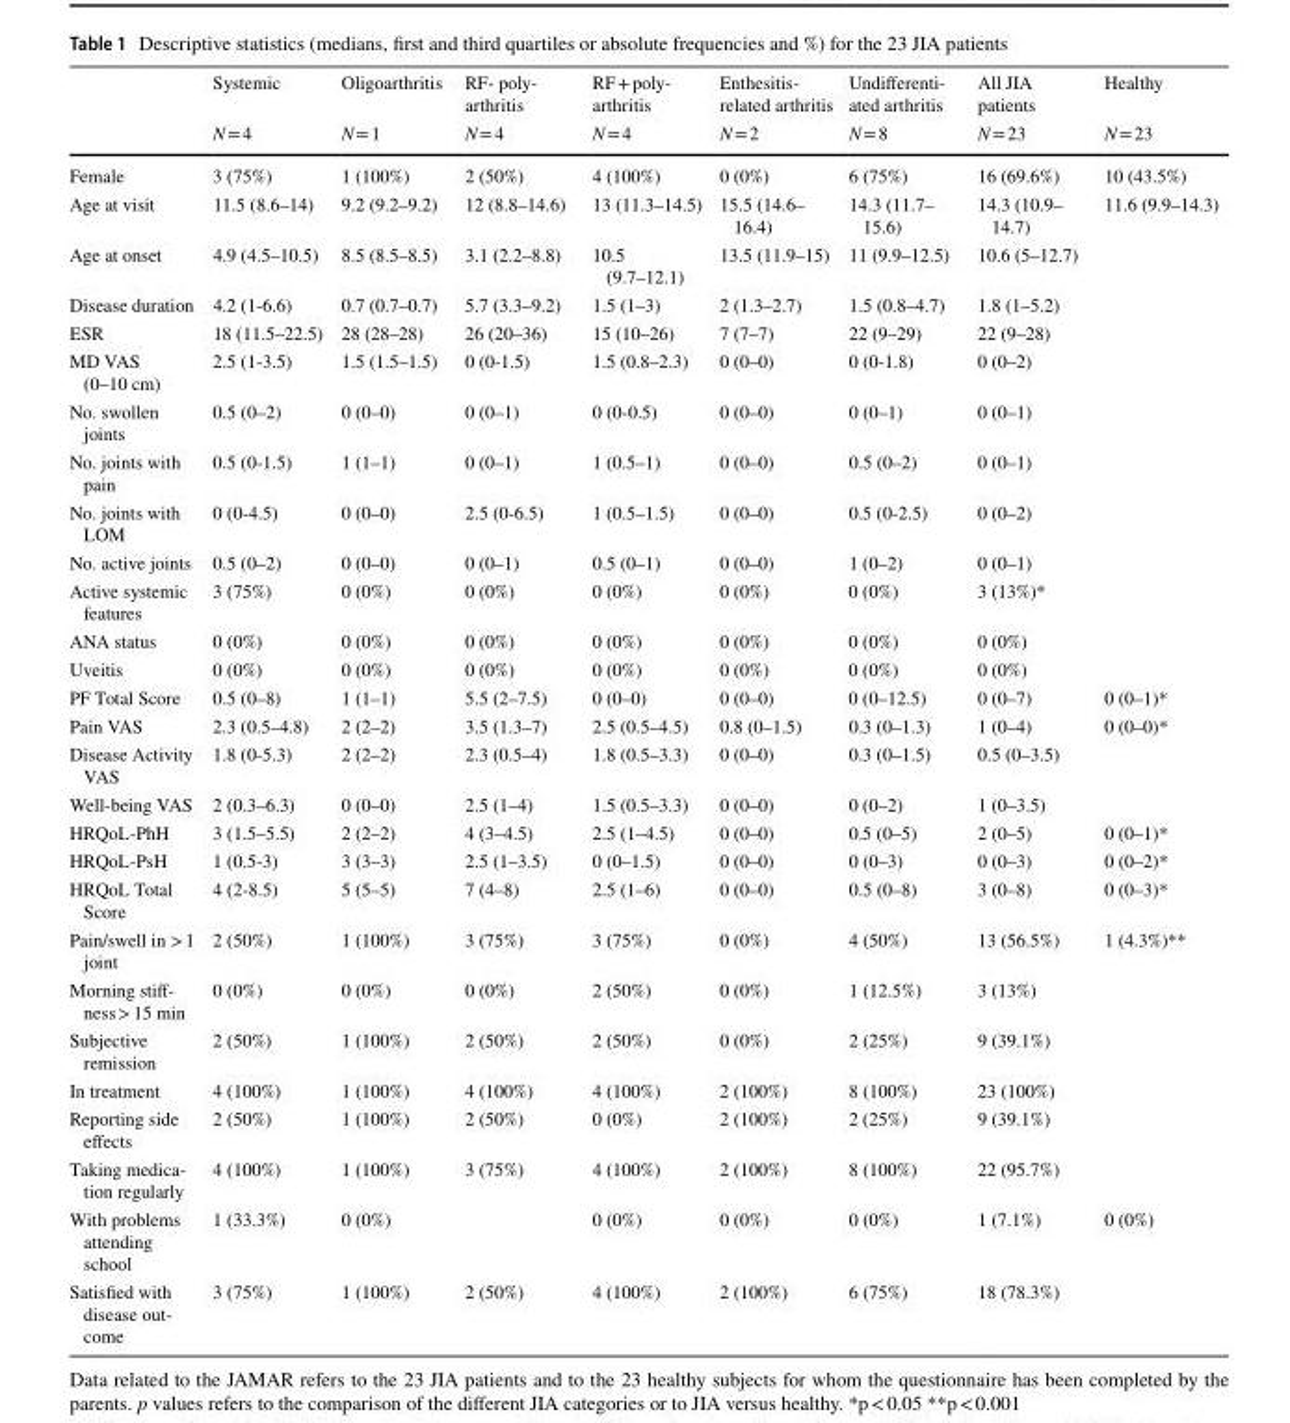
<table><thead><tr><td rowspan="2"></td><td rowspan="2">Systemic N = 4</td><td rowspan="2">Oligoarthritis N = 1</td><td rowspan="2">RF- poly- arthritis N = 4</td><td rowspan="2">RF + poly- arthritis N = 4</td><td rowspan="2">Enthesitis- related arthritis N = 2</td><td rowspan="2">Undifferenti- ated arthritis N = 8</td><td rowspan="2">All JIA patients N = 23</td><td rowspan="2">Healthy N = 23</td></tr><tr></tr></thead><tbody><tr><td>Female</td><td>3 (75%)</td><td>1 (100%)</td><td>2 (50%)</td><td>4 (100%)</td><td>0 (0%)</td><td>6 (75%)</td><td>16 (69.6%)</td><td>10 (43.5%)</td></tr><tr><td>Age at visit</td><td>11.5 (8.6–14)</td><td>9.2 (9.2–9.2)</td><td>12 (8.8–14.6)</td><td>13 (11.3–14.5)</td><td>15.5 (14.6– 16.4)</td><td>14.3 (11.7– 15.6)</td><td>14.3 (10.9– 14.7)</td><td>11.6 (9.9–14.3)</td></tr><tr><td>Age at onset</td><td>4.9 (4.5–10.5)</td><td>8.5 (8.5–8.5)</td><td>3.1 (2.2–8.8)</td><td>10.5 (9.7–12.1)</td><td>13.5 (11.9–15)</td><td>11 (9.9–12.5)</td><td>10.6 (5–12.7)</td><td></td></tr><tr><td>Disease duration</td><td>4.2 (1-6.6)</td><td>0.7 (0.7–0.7)</td><td>5.7 (3.3–9.2)</td><td>1.5 (1–3)</td><td>2 (1.3–2.7)</td><td>1.5 (0.8–4.7)</td><td>1.8 (1–5.2)</td><td></td></tr><tr><td>ESR</td><td>18 (11.5–22.5)</td><td>28 (28–28)</td><td>26 (20–36)</td><td>15 (10–26)</td><td>7 (7–7)</td><td>22 (9–29)</td><td>22 (9–28)</td><td></td></tr><tr><td>MD VAS (0–10 cm)</td><td>2.5 (1-3.5)</td><td>1.5 (1.5–1.5)</td><td>0 (0-1.5)</td><td>1.5 (0.8–2.3)</td><td>0 (0–0)</td><td>0 (0-1.8)</td><td>0 (0–2)</td><td></td></tr><tr><td>No. swollen joints</td><td>0.5 (0–2)</td><td>0 (0–0)</td><td>0 (0–1)</td><td>0 (0-0.5)</td><td>0 (0–0)</td><td>0 (0–1)</td><td>0 (0–1)</td><td></td></tr><tr><td>No. joints with pain</td><td>0.5 (0-1.5)</td><td>1 (1–1)</td><td>0 (0–1)</td><td>1 (0.5–1)</td><td>0 (0–0)</td><td>0.5 (0–2)</td><td>0 (0–1)</td><td></td></tr><tr><td>No. joints with LOM</td><td>0 (0-4.5)</td><td>0 (0–0)</td><td>2.5 (0-6.5)</td><td>1 (0.5–1.5)</td><td>0 (0–0)</td><td>0.5 (0-2.5)</td><td>0 (0–2)</td><td></td></tr><tr><td>No. active joints</td><td>0.5 (0–2)</td><td>0 (0–0)</td><td>0 (0–1)</td><td>0.5 (0–1)</td><td>0 (0–0)</td><td>1 (0–2)</td><td>0 (0–1)</td><td></td></tr><tr><td>Active systemic features</td><td>3 (75%)</td><td>0 (0%)</td><td>0 (0%)</td><td>0 (0%)</td><td>0 (0%)</td><td>0 (0%)</td><td>3 (13%)*</td><td></td></tr><tr><td>ANA status</td><td>0 (0%)</td><td>0 (0%)</td><td>0 (0%)</td><td>0 (0%)</td><td>0 (0%)</td><td>0 (0%)</td><td>0 (0%)</td><td></td></tr><tr><td>Uveitis</td><td>0 (0%)</td><td>0 (0%)</td><td>0 (0%)</td><td>0 (0%)</td><td>0 (0%)</td><td>0 (0%)</td><td>0 (0%)</td><td></td></tr><tr><td>PF Total Score</td><td>0.5 (0–8)</td><td>1 (1–1)</td><td>5.5 (2–7.5)</td><td>0 (0–0)</td><td>0 (0–0)</td><td>0 (0–12.5)</td><td>0 (0–7)</td><td>0 (0–1)*</td></tr><tr><td>Pain VAS</td><td>2.3 (0.5–4.8)</td><td>2 (2–2)</td><td>3.5 (1.3–7)</td><td>2.5 (0.5–4.5)</td><td>0.8 (0–1.5)</td><td>0.3 (0–1.3)</td><td>1 (0–4)</td><td>0 (0–0)*</td></tr><tr><td>Disease Activity VAS</td><td>1.8 (0-5.3)</td><td>2 (2–2)</td><td>2.3 (0.5–4)</td><td>1.8 (0.5–3.3)</td><td>0 (0–0)</td><td>0.3 (0–1.5)</td><td>0.5 (0–3.5)</td><td></td></tr><tr><td>Well-being VAS</td><td>2 (0.3–6.3)</td><td>0 (0–0)</td><td>2.5 (1–4)</td><td>1.5 (0.5–3.3)</td><td>0 (0–0)</td><td>0 (0–2)</td><td>1 (0–3.5)</td><td></td></tr><tr><td>HRQoL-PhH</td><td>3 (1.5–5.5)</td><td>2 (2–2)</td><td>4 (3–4.5)</td><td>2.5 (1–4.5)</td><td>0 (0–0)</td><td>0.5 (0–5)</td><td>2 (0–5)</td><td>0 (0–1)*</td></tr><tr><td>HRQoL-PsH</td><td>1 (0.5-3)</td><td>3 (3–3)</td><td>2.5 (1–3.5)</td><td>0 (0–1.5)</td><td>0 (0–0)</td><td>0 (0–3)</td><td>0 (0–3)</td><td>0 (0–2)*</td></tr><tr><td>HRQoL Total Score</td><td>4 (2-8.5)</td><td>5 (5–5)</td><td>7 (4–8)</td><td>2.5 (1–6)</td><td>0 (0–0)</td><td>0.5 (0–8)</td><td>3 (0–8)</td><td>0 (0–3)*</td></tr><tr><td>Pain/swell in &gt; 1 joint</td><td>2 (50%)</td><td>1 (100%)</td><td>3 (75%)</td><td>3 (75%)</td><td>0 (0%)</td><td>4 (50%)</td><td>13 (56.5%)</td><td>1 (4.3%)**</td></tr><tr><td>Morning stiff- ness &gt; 15 min</td><td>0 (0%)</td><td>0 (0%)</td><td>0 (0%)</td><td>2 (50%)</td><td>0 (0%)</td><td>1 (12.5%)</td><td>3 (13%)</td><td></td></tr><tr><td>Subjective remission</td><td>2 (50%)</td><td>1 (100%)</td><td>2 (50%)</td><td>2 (50%)</td><td>0 (0%)</td><td>2 (25%)</td><td>9 (39.1%)</td><td></td></tr><tr><td>In treatment</td><td>4 (100%)</td><td>1 (100%)</td><td>4 (100%)</td><td>4 (100%)</td><td>2 (100%)</td><td>8 (100%)</td><td>23 (100%)</td><td></td></tr><tr><td>Reporting side effects</td><td>2 (50%)</td><td>1 (100%)</td><td>2 (50%)</td><td>0 (0%)</td><td>2 (100%)</td><td>2 (25%)</td><td>9 (39.1%)</td><td></td></tr><tr><td>Taking medica- tion regularly</td><td>4 (100%)</td><td>1 (100%)</td><td>3 (75%)</td><td>4 (100%)</td><td>2 (100%)</td><td>8 (100%)</td><td>22 (95.7%)</td><td></td></tr><tr><td>With problems attending school</td><td>1 (33.3%)</td><td>0 (0%)</td><td></td><td>0 (0%)</td><td>0 (0%)</td><td>0 (0%)</td><td>1 (7.1%)</td><td>0 (0%)</td></tr><tr><td>Satisfied with disease out- come</td><td>3 (75%)</td><td>1 (100%)</td><td>2 (50%)</td><td>4 (100%)</td><td>2 (100%)</td><td>6 (75%)</td><td>18 (78.3%)</td><td></td></tr></tbody></table>